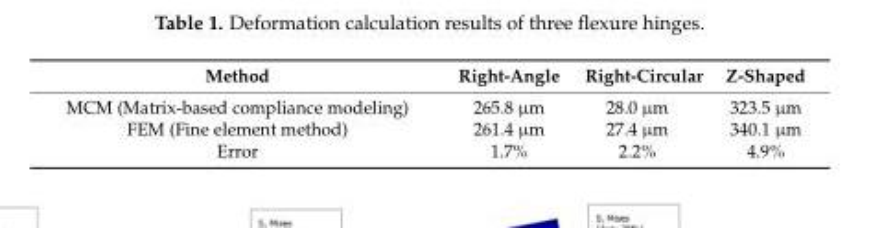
<table><thead><tr><td>Method</td><td>Right-Angle</td><td>Right-Circular</td><td>Z-Shaped</td></tr></thead><tbody><tr><td>MCM (Matrix-based compliance modeling)</td><td>265.8 µm</td><td>28.0 µm</td><td>323.5 µm</td></tr><tr><td>FEM (Fine element method)</td><td>261.4 µm</td><td>27.4 µm</td><td>340.1 µm</td></tr><tr><td>Error</td><td>1.7%</td><td>2.2%</td><td>4.9%</td></tr></tbody></table>